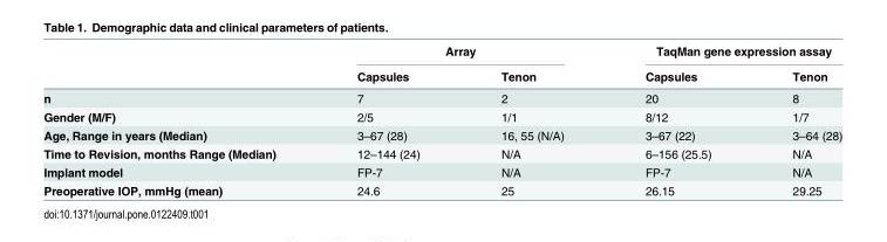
<table><thead><tr><td rowspan="2"></td><td colspan="2">Array</td><td colspan="2">TaqMan gene expression assay</td></tr><tr><td>Capsules</td><td>Tenon</td><td>Capsules</td><td>Tenon</td></tr></thead><tbody><tr><td>n</td><td>7</td><td>2</td><td>20</td><td>8</td></tr><tr><td>Gender (M/F)</td><td>2/5</td><td>1/1</td><td>8/12</td><td>1/7</td></tr><tr><td>Age, Range in years (Median)</td><td>3–67 (28)</td><td>16, 55 (N/A)</td><td>3–67 (22)</td><td>3–64 (28)</td></tr><tr><td>Time to Revision, months Range (Median)</td><td>12–144 (24)</td><td>N/A</td><td>6–156 (25.5)</td><td>N/A</td></tr><tr><td>Implant model</td><td>FP-7</td><td>N/A</td><td>FP-7</td><td>N/A</td></tr><tr><td>Preoperative IOP, mmHg (mean)</td><td>24.6</td><td>25</td><td>26.15</td><td>29.25</td></tr></tbody></table>